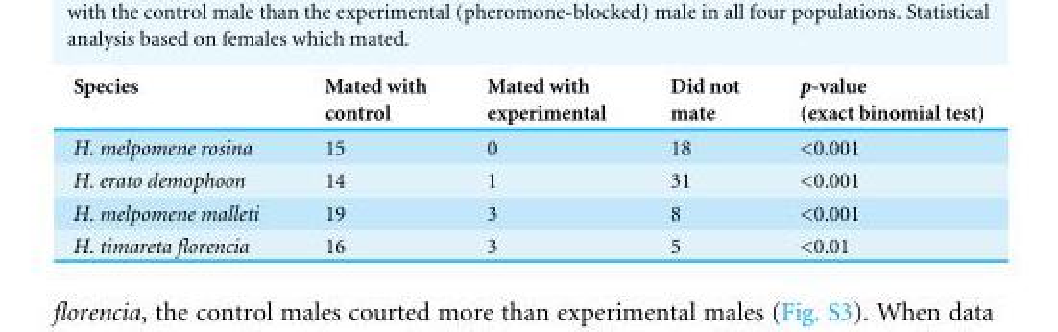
<table><thead><tr><td>Species</td><td>Mated with control</td><td>Mated with experimental</td><td>Did not mate</td><td>p-value (exact binomial test)</td></tr></thead><tbody><tr><td>H. melpomene rosina</td><td>15</td><td>0</td><td>18</td><td>&lt;0.001</td></tr><tr><td>H. erato demophoon</td><td>14</td><td>1</td><td>31</td><td>&lt;0.001</td></tr><tr><td>H. melpomene malleti</td><td>19</td><td>3</td><td>8</td><td>&lt;0.001</td></tr><tr><td>H. timareta florencia</td><td>16</td><td>3</td><td>5</td><td>&lt;0.01</td></tr></tbody></table>